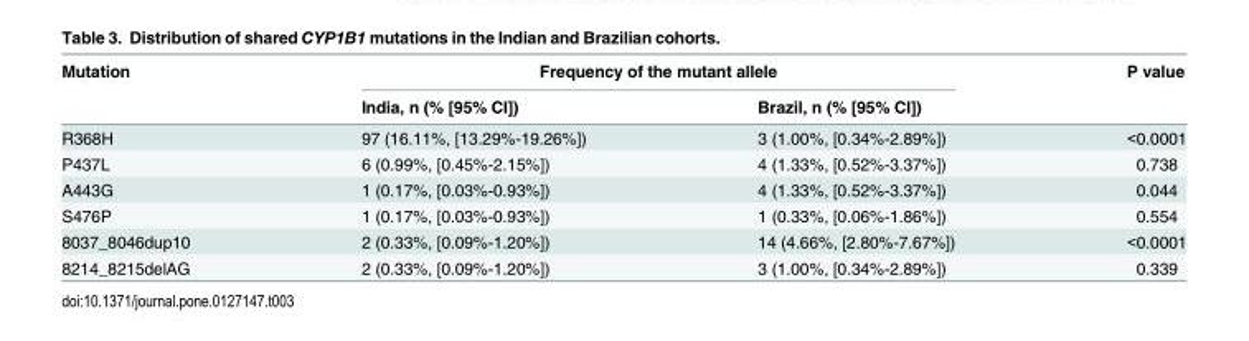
<table><thead><tr><td rowspan="2">Mutation</td><td colspan="2">Frequency of the mutant allele</td><td rowspan="2">P value</td></tr><tr><td>India, n (% [95% CI])</td><td>Brazil, n (% [95% CI])</td></tr></thead><tbody><tr><td>R368H</td><td>97 (16.11%, [13.29%-19.26%])</td><td>3 (1.00%, [0.34%-2.89%])</td><td>&lt;0.0001</td></tr><tr><td>P437L</td><td>6 (0.99%, [0.45%-2.15%])</td><td>4 (1.33%, [0.52%-3.37%])</td><td>0.738</td></tr><tr><td>A443G</td><td>1 (0.17%, [0.03%-0.93%])</td><td>4 (1.33%, [0.52%-3.37%])</td><td>0.044</td></tr><tr><td>S476P</td><td>1 (0.17%, [0.03%-0.93%])</td><td>1 (0.33%, [0.06%-1.86%])</td><td>0.554</td></tr><tr><td>8037_8046dup10</td><td>2 (0.33%, [0.09%-1.20%])</td><td>14 (4.66%, [2.80%-7.67%])</td><td>&lt;0.0001</td></tr><tr><td>8214_8215delAG</td><td>2 (0.33%, [0.09%-1.20%])</td><td>3 (1.00%, [0.34%-2.89%])</td><td>0.339</td></tr></tbody></table>